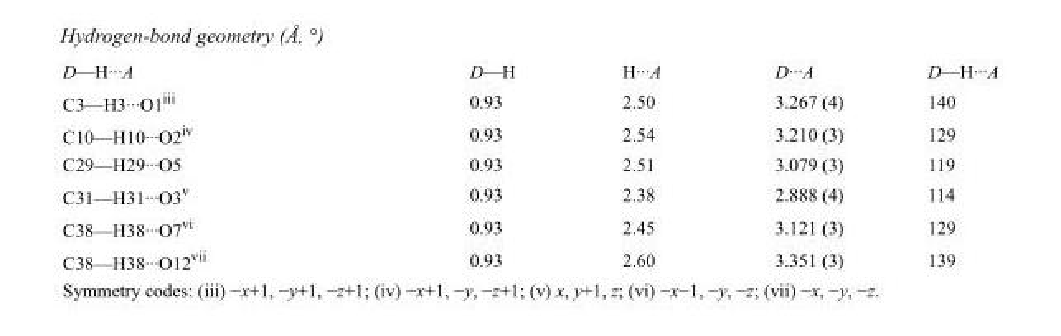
<table><tbody><tr><td>D—H···A</td><td>D—H</td><td>H···A</td><td>D···A</td><td>D—H···A</td></tr><tr><td>C3—H3···O1<sup>iii</sup></td><td>0.93</td><td>2.50</td><td>3.267 (4)</td><td>140</td></tr><tr><td>C10—H10···O2<sup>iv</sup></td><td>0.93</td><td>2.54</td><td>3.210 (3)</td><td>129</td></tr><tr><td>C29—H29···O5</td><td>0.93</td><td>2.51</td><td>3.079 (3)</td><td>119</td></tr><tr><td>C31—H31···O3<sup>v</sup></td><td>0.93</td><td>2.38</td><td>2.888 (4)</td><td>114</td></tr><tr><td>C38—H38···O7<sup>vi</sup></td><td>0.93</td><td>2.45</td><td>3.121 (3)</td><td>129</td></tr><tr><td>C38—H38···O12<sup>vii</sup></td><td>0.93</td><td>2.60</td><td>3.351 (3)</td><td>139</td></tr></tbody></table>